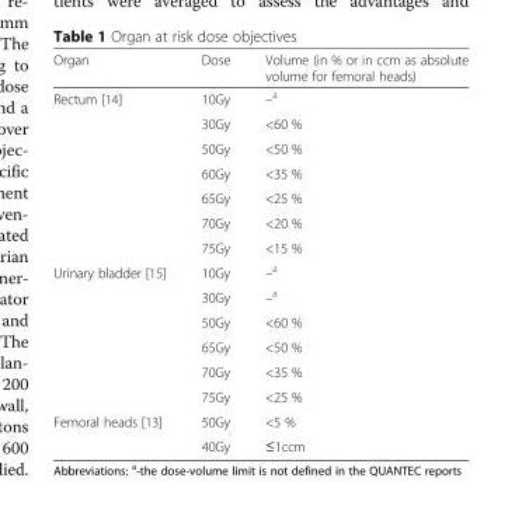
<table><thead><tr><td>Organ</td><td>Dose</td><td>Volume (in % or in ccm as absolute volume for femoral heads)</td></tr></thead><tbody><tr><td rowspan="7">Rectum [14]</td><td>10Gy</td><td>–<sup>a</sup></td></tr><tr><td>30Gy</td><td>&lt;60 %</td></tr><tr><td>50Gy</td><td>&lt;50 %</td></tr><tr><td>60Gy</td><td>&lt;35 %</td></tr><tr><td>65Gy</td><td>&lt;25 %</td></tr><tr><td>70Gy</td><td>&lt;20 %</td></tr><tr><td>75Gy</td><td>&lt;15 %</td></tr><tr><td rowspan="6">Urinary bladder [15]</td><td>10Gy</td><td>–<sup>a</sup></td></tr><tr><td>30Gy</td><td>–<sup>a</sup></td></tr><tr><td>50Gy</td><td>&lt;60 %</td></tr><tr><td>65Gy</td><td>&lt;50 %</td></tr><tr><td>70Gy</td><td>&lt;35 %</td></tr><tr><td>75Gy</td><td>&lt;25 %</td></tr><tr><td rowspan="2">Femoral heads [13]</td><td>50Gy</td><td>&lt;5 %</td></tr><tr><td>40Gy</td><td>≤1ccm</td></tr></tbody></table>